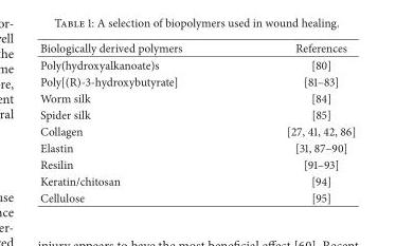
<table><thead><tr><td>Biologically derived polymers</td><td>References</td></tr></thead><tbody><tr><td>Poly(hydroxyalkanoate)s</td><td>[80]</td></tr><tr><td>Poly[(R)-3-hydroxybutyrate]</td><td>[81–83]</td></tr><tr><td>Worm silk</td><td>[84]</td></tr><tr><td>Spider silk</td><td>[85]</td></tr><tr><td>Collagen</td><td>[27, 41, 42, 86]</td></tr><tr><td>Elastin</td><td>[31, 87–90]</td></tr><tr><td>Resilin</td><td>[91–93]</td></tr><tr><td>Keratin/chitosan</td><td>[94]</td></tr><tr><td>Cellulose</td><td>[95]</td></tr></tbody></table>